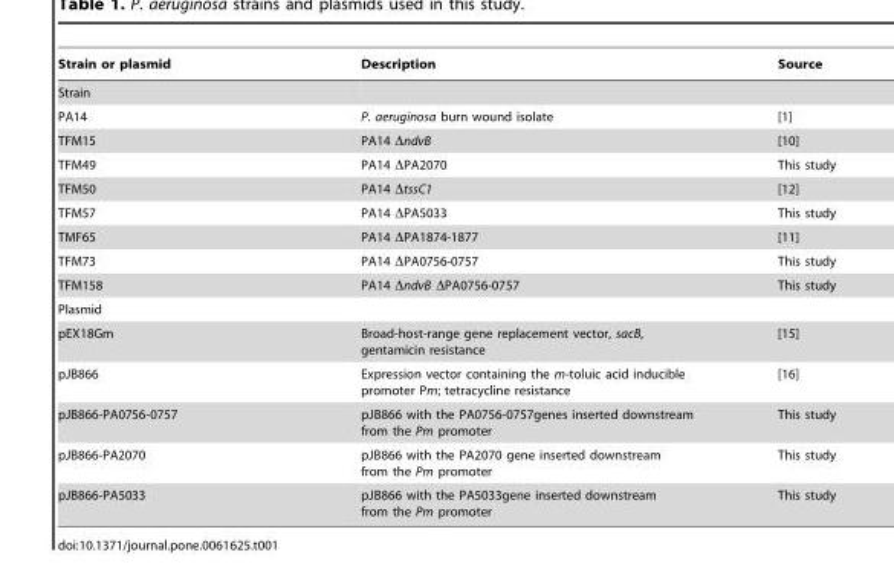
<table><thead><tr><td>Strain or plasmid</td><td>Description</td><td>Source</td></tr></thead><tbody><tr><td colspan="3">Strain</td></tr><tr><td>PA14</td><td>P. aeruginosa burn wound isolate</td><td>[1]</td></tr><tr><td>TFM15</td><td>PA14 ΔndvB</td><td>[10]</td></tr><tr><td>TFM49</td><td>PA14 ΔPA2070</td><td>This study</td></tr><tr><td>TFM50</td><td>PA14 ΔtssC1</td><td>[12]</td></tr><tr><td>TFM57</td><td>PA14 ΔPA5033</td><td>This study</td></tr><tr><td>TMF65</td><td>PA14 ΔPA1874-1877</td><td>[11]</td></tr><tr><td>TFM73</td><td>PA14 ΔPA0756-0757</td><td>This study</td></tr><tr><td>TFM158</td><td>PA14 ΔndvB ΔPA0756-0757</td><td>This study</td></tr><tr><td colspan="3">Plasmid</td></tr><tr><td>pEX18Gm</td><td>Broad-host-range gene replacement vector, sacB, gentamicin resistance</td><td>[15]</td></tr><tr><td>pJB866</td><td>Expression vector containing the m-toluic acid inducible promoter Pm; tetracycline resistance</td><td>[16]</td></tr><tr><td>pJB866-PA0756-0757</td><td>pJB866 with the PA0756-0757genes inserted downstream from the Pm promoter</td><td>This study</td></tr><tr><td>pJB866-PA2070</td><td>pJB866 with the PA2070 gene inserted downstream from the Pm promoter</td><td>This study</td></tr><tr><td>pJB866-PA5033</td><td>pJB866 with the PA5033gene inserted downstream from the Pm promoter</td><td>This study</td></tr></tbody></table>